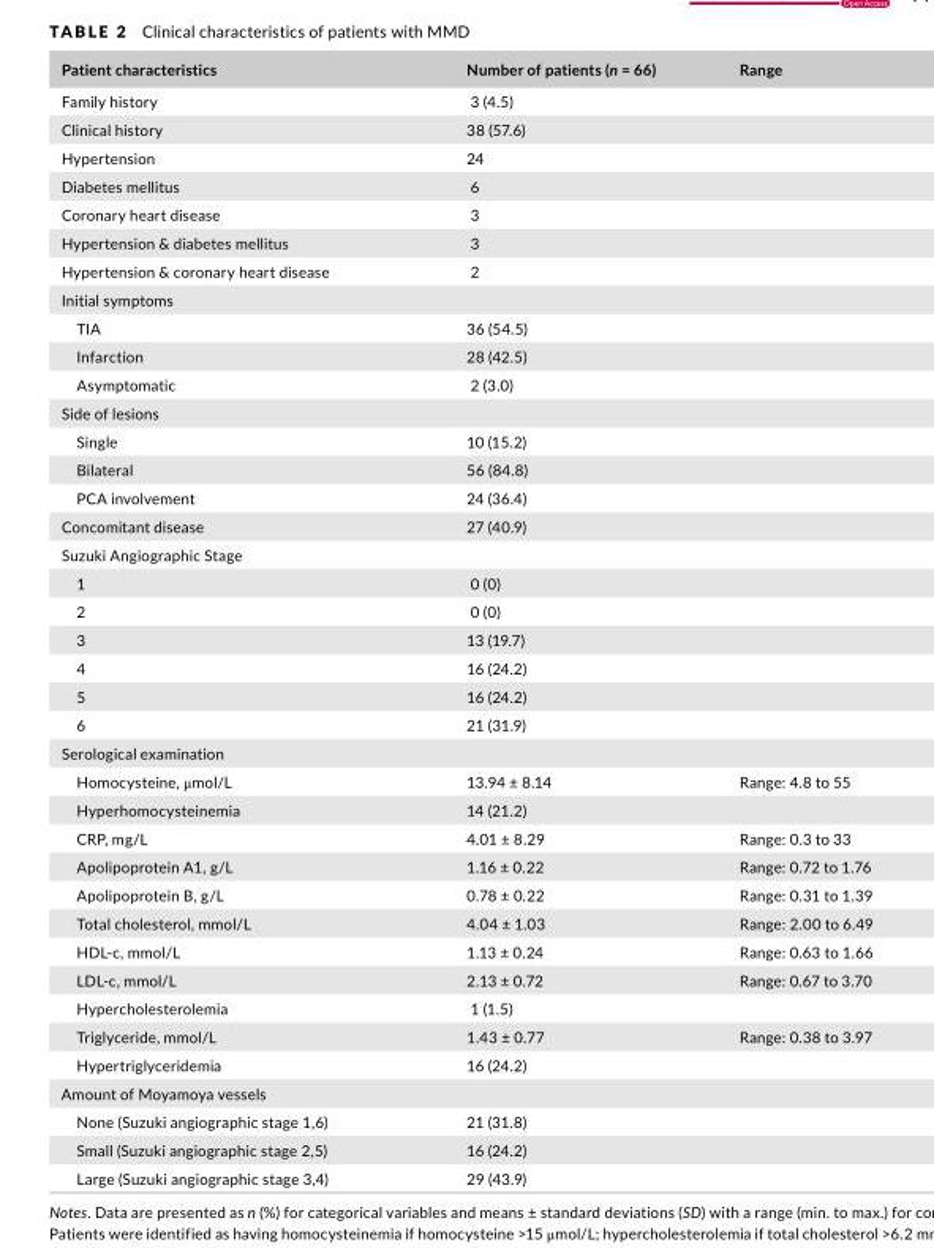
<table><thead><tr><td>Patient characteristics</td><td>Number of patients (n = 66)</td><td>Range</td></tr></thead><tbody><tr><td>Family history</td><td>3 (4.5)</td><td></td></tr><tr><td>Clinical history</td><td>38 (57.6)</td><td></td></tr><tr><td>Hypertension</td><td>24</td><td></td></tr><tr><td>Diabetes mellitus</td><td>6</td><td></td></tr><tr><td>Coronary heart disease</td><td>3</td><td></td></tr><tr><td>Hypertension &amp; diabetes mellitus</td><td>3</td><td></td></tr><tr><td>Hypertension &amp; coronary heart disease</td><td>2</td><td></td></tr><tr><td colspan="3">Initial symptoms</td></tr><tr><td>TIA</td><td>36 (54.5)</td><td></td></tr><tr><td>Infarction</td><td>28 (42.5)</td><td></td></tr><tr><td>Asymptomatic</td><td>2 (3.0)</td><td></td></tr><tr><td colspan="3">Side of lesions</td></tr><tr><td>Single</td><td>10 (15.2)</td><td></td></tr><tr><td>Bilateral</td><td>56 (84.8)</td><td></td></tr><tr><td>PCA involvement</td><td>24 (36.4)</td><td></td></tr><tr><td>Concomitant disease</td><td>27 (40.9)</td><td></td></tr><tr><td colspan="3">Suzuki Angiographic Stage</td></tr><tr><td>1</td><td>0 (0)</td><td></td></tr><tr><td>2</td><td>0 (0)</td><td></td></tr><tr><td>3</td><td>13 (19.7)</td><td></td></tr><tr><td>4</td><td>16 (24.2)</td><td></td></tr><tr><td>5</td><td>16 (24.2)</td><td></td></tr><tr><td>6</td><td>21 (31.9)</td><td></td></tr><tr><td colspan="3">Serological examination</td></tr><tr><td>Homocysteine, μmol/L</td><td>13.94 ± 8.14</td><td>Range: 4.8 to 55</td></tr><tr><td>Hyperhomocysteinemia</td><td>14 (21.2)</td><td></td></tr><tr><td>CRP, mg/L</td><td>4.01 ± 8.29</td><td>Range: 0.3 to 33</td></tr><tr><td>Apolipoprotein A1, g/L</td><td>1.16 ± 0.22</td><td>Range: 0.72 to 1.76</td></tr><tr><td>Apolipoprotein B, g/L</td><td>0.78 ± 0.22</td><td>Range: 0.31 to 1.39</td></tr><tr><td>Total cholesterol, mmol/L</td><td>4.04 ± 1.03</td><td>Range: 2.00 to 6.49</td></tr><tr><td>HDL- c, mmol/L</td><td>1.13 ± 0.24</td><td>Range: 0.63 to 1.66</td></tr><tr><td>LDL- c, mmol/L</td><td>2.13 ± 0.72</td><td>Range: 0.67 to 3.70</td></tr><tr><td>Hypercholesterolemia</td><td>1 (1.5)</td><td></td></tr><tr><td>Triglyceride, mmol/L</td><td>1.43 ± 0.77</td><td>Range: 0.38 to 3.97</td></tr><tr><td>Hypertriglyceridemia</td><td>16 (24.2)</td><td></td></tr><tr><td colspan="3">Amount of Moyamoya vessels</td></tr><tr><td>None (Suzuki angiographic stage 1,6)</td><td>21 (31.8)</td><td></td></tr><tr><td>Small (Suzuki angiographic stage 2,5)</td><td>16 (24.2)</td><td></td></tr><tr><td>Large (Suzuki angiographic stage 3,4)</td><td>29 (43.9)</td><td></td></tr></tbody></table>